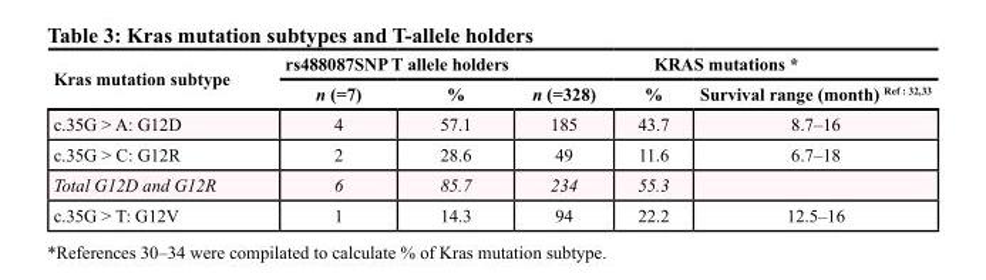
<table><thead><tr><td rowspan="2">Kras mutation subtype</td><td colspan="2">rs488087SNP T allele holders</td><td colspan="3">KRAS mutations *</td></tr><tr><td>n (=7)</td><td>%</td><td>n (=328)</td><td>%</td><td>Survival range (month) <sup>Ref : 32,33</sup></td></tr></thead><tbody><tr><td>c.35G &gt; A: G12D</td><td>4</td><td>57.1</td><td>185</td><td>43.7</td><td>8.7–16</td></tr><tr><td>c.35G &gt; C: G12R</td><td>2</td><td>28.6</td><td>49</td><td>11.6</td><td>6.7–18</td></tr><tr><td>Total G12D and G12R</td><td>6</td><td>85.7</td><td>234</td><td>55.3</td><td></td></tr><tr><td>c.35G &gt; T: G12V</td><td>1</td><td>14.3</td><td>94</td><td>22.2</td><td>12.5–16</td></tr></tbody></table>